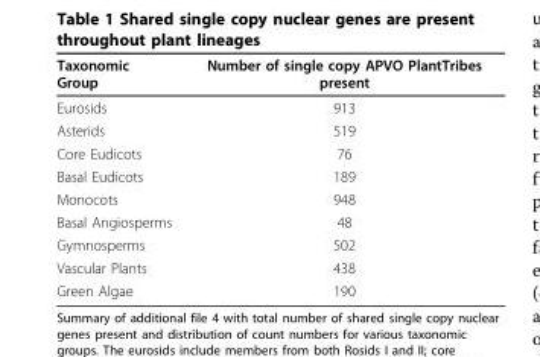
<table><thead><tr><td>Taxonomic Group</td><td>Number of single copy APVO PlantTribes present</td></tr></thead><tbody><tr><td>Eurosids</td><td>913</td></tr><tr><td>Asterids</td><td>519</td></tr><tr><td>Core Eudicots</td><td>76</td></tr><tr><td>Basal Eudicots</td><td>189</td></tr><tr><td>Monocots</td><td>948</td></tr><tr><td>Basal Angiosperms</td><td>48</td></tr><tr><td>Gymnosperms</td><td>502</td></tr><tr><td>Vascular Plants</td><td>438</td></tr><tr><td>Green Algae</td><td>190</td></tr></tbody></table>